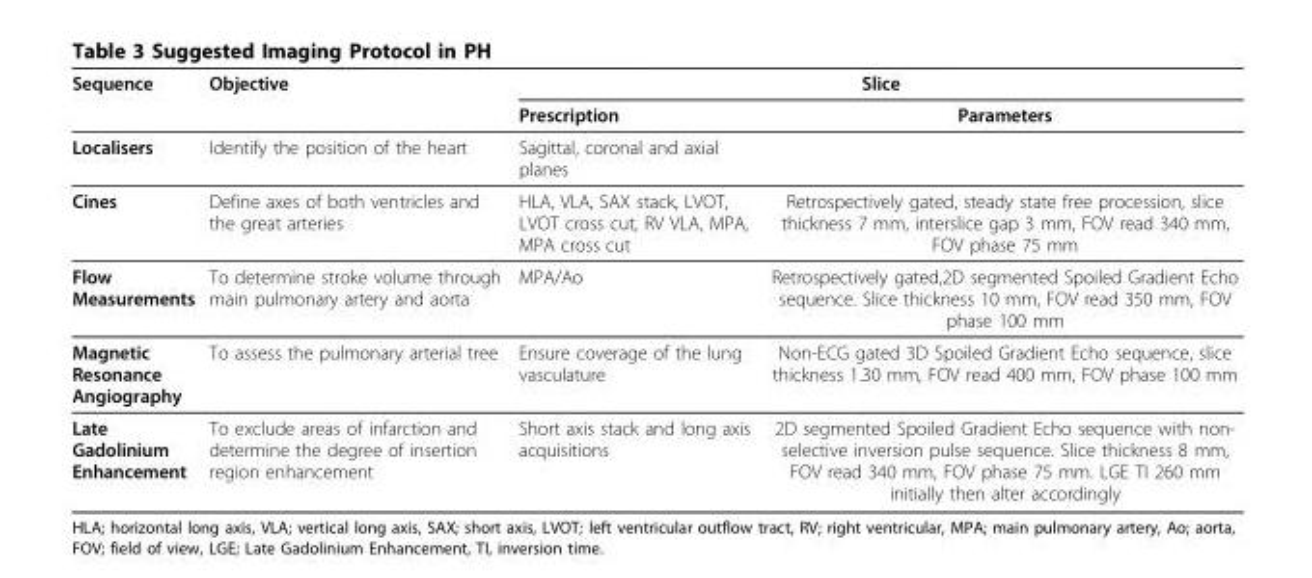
<table><thead><tr><td rowspan="2">Sequence</td><td rowspan="2">Objective</td><td colspan="2">Slice</td></tr><tr><td>Prescription</td><td>Parameters</td></tr></thead><tbody><tr><td>Localisers</td><td>Identify the position of the heart</td><td>Sagittal, coronal and axial planes</td><td></td></tr><tr><td>Cines</td><td>Define axes of both ventricles and the great arteries</td><td>HLA, VLA, SAX stack, LVOT, LVOT cross cut, RV VLA, MPA, MPA cross cut</td><td>Retrospectively gated, steady state free procession, slice thickness 7 mm, interslice gap 3 mm, FOV read 340 mm, FOV phase 75 mm</td></tr><tr><td>Flow Measurements</td><td>To determine stroke volume through main pulmonary artery and aorta</td><td>MPA/Ao</td><td>Retrospectively gated,2D segmented Spoiled Gradient Echo sequence. Slice thickness 10 mm, FOV read 350 mm, FOV phase 100 mm</td></tr><tr><td>Magnetic Resonance Angiography</td><td>To assess the pulmonary arterial tree</td><td>Ensure coverage of the lung vasculature</td><td>Non-ECG gated 3D Spoiled Gradient Echo sequence, slice thickness 1.30 mm, FOV read 400 mm, FOV phase 100 mm</td></tr><tr><td>Late Gadolinium Enhancement</td><td>To exclude areas of infarction and determine the degree of insertion region enhancement</td><td>Short axis stack and long axis acquisitions</td><td>2D segmented Spoiled Gradient Echo sequence with non- selective inversion pulse sequence. Slice thickness 8 mm, FOV read 340 mm, FOV phase 75 mm. LGE TI 260 mm initially then alter accordingly</td></tr></tbody></table>